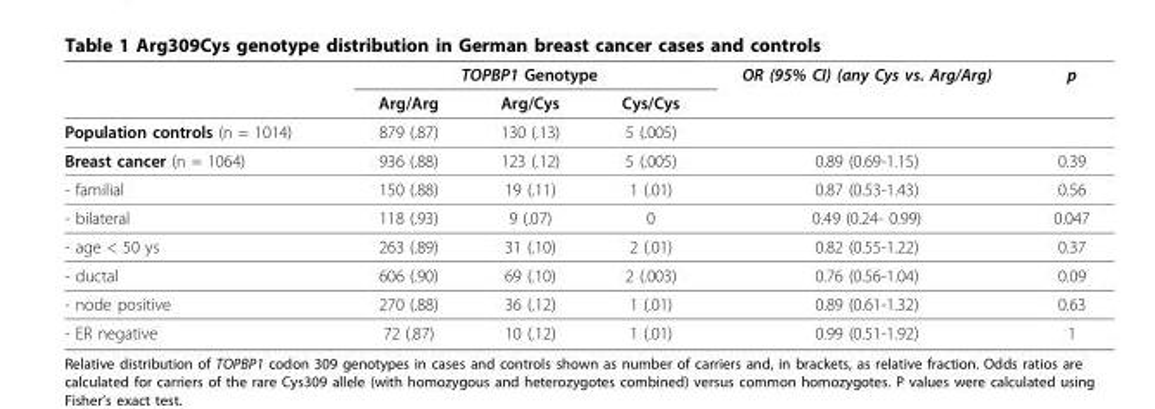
<table><thead><tr><td rowspan="2"></td><td colspan="3">TOPBP1 Genotype</td><td rowspan="2">OR (95% CI) (any Cys vs. Arg/Arg)</td><td rowspan="2">p</td></tr><tr><td>Arg/Arg</td><td>Arg/Cys</td><td>Cys/Cys</td></tr></thead><tbody><tr><td>Population controls (n = 1014)</td><td>879 (.87)</td><td>130 (.13)</td><td>5 (.005)</td><td></td><td></td></tr><tr><td>Breast cancer (n = 1064)</td><td>936 (.88)</td><td>123 (.12)</td><td>5 (.005)</td><td>0.89 (0.69-1.15)</td><td>0.39</td></tr><tr><td>- familial</td><td>150 (.88)</td><td>19 (.11)</td><td>1 (.01)</td><td>0.87 (0.53-1.43)</td><td>0.56</td></tr><tr><td>- bilateral</td><td>118 (.93)</td><td>9 (.07)</td><td>0</td><td>0.49 (0.24- 0.99)</td><td>0.047</td></tr><tr><td>- age &lt; 50 ys</td><td>263 (.89)</td><td>31 (.10)</td><td>2 (.01)</td><td>0.82 (0.55-1.22)</td><td>0.37</td></tr><tr><td>- ductal</td><td>606 (.90)</td><td>69 (.10)</td><td>2 (.003)</td><td>0.76 (0.56-1.04)</td><td>0.09</td></tr><tr><td>- node positive</td><td>270 (.88)</td><td>36 (.12)</td><td>1 (.01)</td><td>0.89 (0.61-1.32)</td><td>0.63</td></tr><tr><td>- ER negative</td><td>72 (.87)</td><td>10 (.12)</td><td>1 (.01)</td><td>0.99 (0.51-1.92)</td><td>1</td></tr></tbody></table>